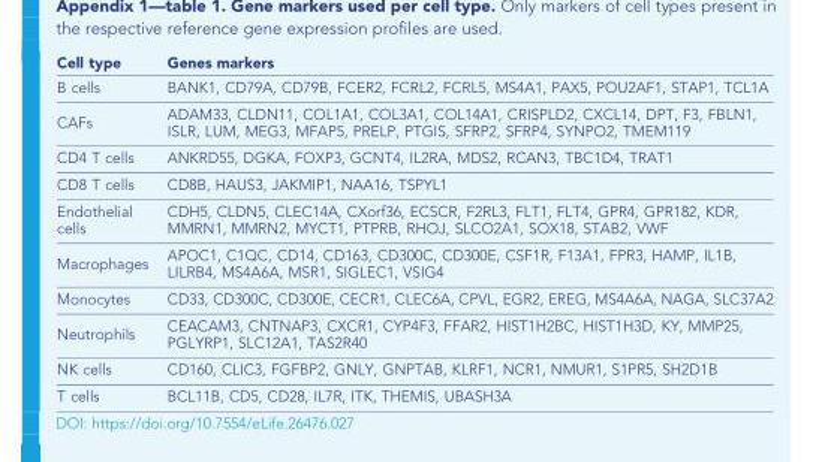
<table><thead><tr><td>Cell type</td><td>Genes markers</td></tr></thead><tbody><tr><td>B cells</td><td>BANK1, CD79A, CD79B, FCER2, FCRL2, FCRL5, MS4A1, PAX5, POU2AF1, STAP1, TCL1A</td></tr><tr><td>CAFs</td><td>ADAM33, CLDN11, COL1A1, COL3A1, COL14A1, CRISPLD2, CXCL14, DPT, F3, FBLN1, ISLR, LUM, MEG3, MFAP5, PRELP, PTGIS, SFRP2, SFRP4, SYNPO2, TMEM119</td></tr><tr><td>CD4 T cells</td><td>ANKRD55, DGKA, FOXP3, GCNT4, IL2RA, MDS2, RCAN3, TBC1D4, TRAT1</td></tr><tr><td>CD8 T cells</td><td>CD8B, HAUS3, JAKMIP1, NAA16, TSPYL1</td></tr><tr><td>Endothelial cells</td><td>CDH5, CLDN5, CLEC14A, CXorf36, ECSCR, F2RL3, FLT1, FLT4, GPR4, GPR182, KDR, MMRN1, MMRN2, MYCT1, PTPRB, RHOJ, SLCO2A1, SOX18, STAB2, VWF</td></tr><tr><td>Macrophages</td><td>APOC1, C1QC, CD14, CD163, CD300C, CD300E, CSF1R, F13A1, FPR3, HAMP, IL1B, LILRB4, MS4A6A, MSR1, SIGLEC1, VSIG4</td></tr><tr><td>Monocytes</td><td>CD33, CD300C, CD300E, CECR1, CLEC6A, CPVL, EGR2, EREG, MS4A6A, NAGA, SLC37A2</td></tr><tr><td>Neutrophils</td><td>CEACAM3, CNTNAP3, CXCR1, CYP4F3, FFAR2, HIST1H2BC, HIST1H3D, KY, MMP25, PGLYRP1, SLC12A1, TAS2R40</td></tr><tr><td>NK cells</td><td>CD160, CLIC3, FGFBP2, GNLY, GNPTAB, KLRF1, NCR1, NMUR1, S1PR5, SH2D1B</td></tr><tr><td>T cells</td><td>BCL11B, CD5, CD28, IL7R, ITK, THEMIS, UBASH3A</td></tr></tbody></table>